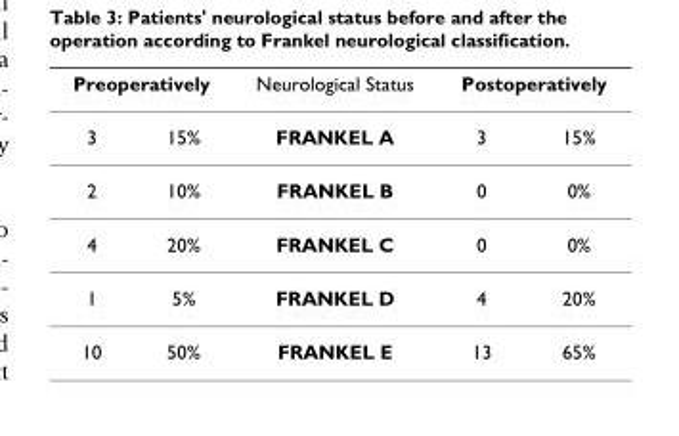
<table><thead><tr><td colspan="2">Preoperatively</td><td rowspan="2">Neurological Status FRANKEL A</td><td colspan="2">Postoperatively</td></tr><tr><td>3</td><td>15%</td><td>3</td><td>15%</td></tr></thead><tbody><tr><td>2</td><td>10%</td><td>FRANKEL B</td><td>0</td><td>0%</td></tr><tr><td>4</td><td>20%</td><td>FRANKEL C</td><td>0</td><td>0%</td></tr><tr><td>1</td><td>5%</td><td>FRANKEL D</td><td>4</td><td>20%</td></tr><tr><td>10</td><td>50%</td><td>FRANKEL E</td><td>13</td><td>65%</td></tr></tbody></table>